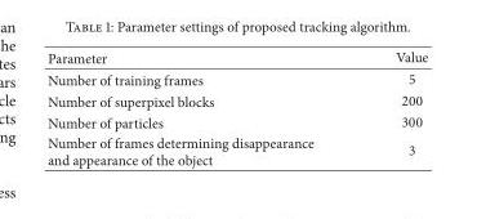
<table><thead><tr><td>Parameter</td><td>Value</td></tr></thead><tbody><tr><td>Number of training frames</td><td>5</td></tr><tr><td>Number of superpixel blocks</td><td>200</td></tr><tr><td>Number of particles</td><td>300</td></tr><tr><td>Number of frames determining disappearance and appearance of the object</td><td>3</td></tr></tbody></table>